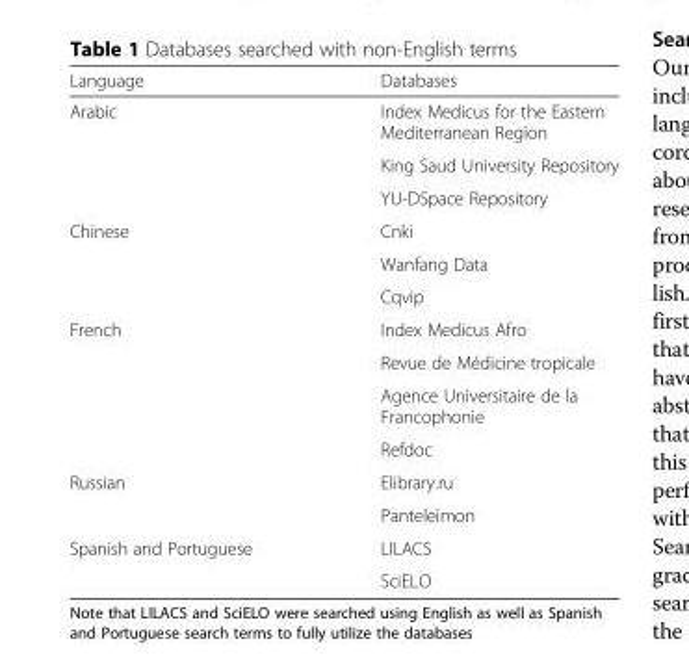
<table><thead><tr><td>Language</td><td>Databases</td></tr></thead><tbody><tr><td rowspan="3">Arabic</td><td>Index Medicus for the Eastern Mediterranean Region</td></tr><tr><td>King Saud University Repository</td></tr><tr><td>YU-DSpace Repository</td></tr><tr><td rowspan="3">Chinese</td><td>Cnki</td></tr><tr><td>Wanfang Data</td></tr><tr><td>Cqvip</td></tr><tr><td rowspan="4">French</td><td>Index Medicus Afro</td></tr><tr><td>Revue de Médicine tropicale</td></tr><tr><td>Agence Universitaire de la Francophonie</td></tr><tr><td>Refdoc</td></tr><tr><td rowspan="2">Russian</td><td>Elibrary.ru</td></tr><tr><td>Panteleimon</td></tr><tr><td rowspan="2">Spanish and Portuguese</td><td>LILACS</td></tr><tr><td>SciELO</td></tr></tbody></table>